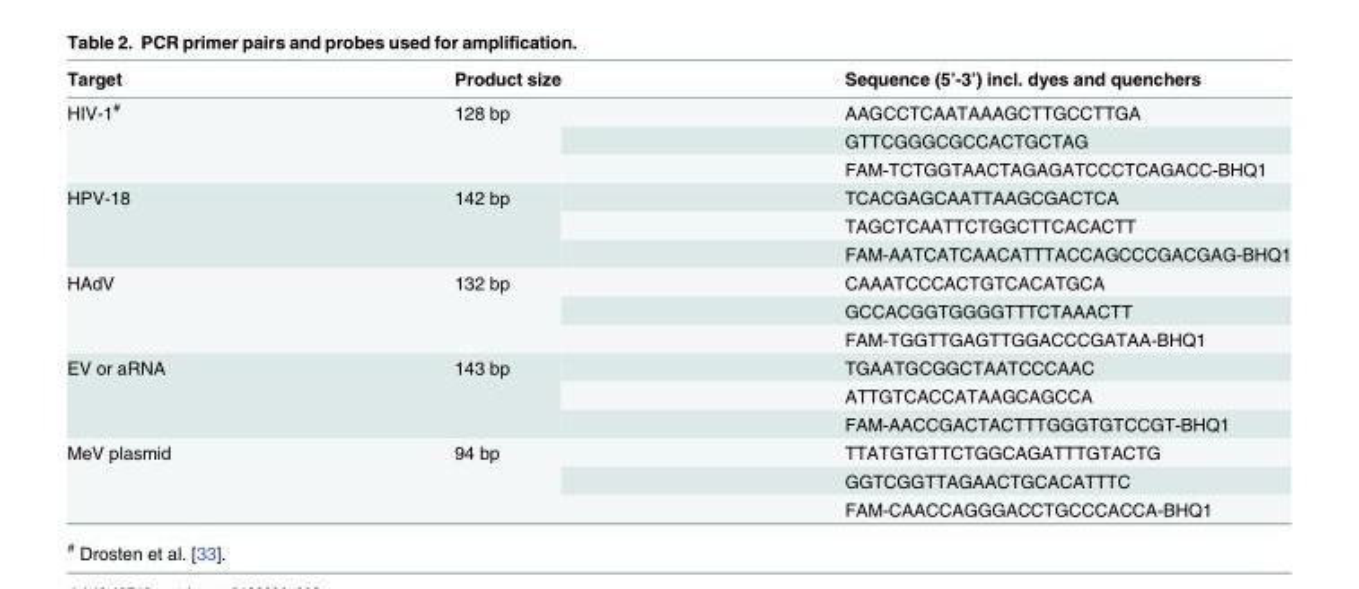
<table><thead><tr><td>Target</td><td>Product size</td><td>Sequence (5’-3’) incl. dyes and quenchers</td></tr></thead><tbody><tr><td rowspan="3">HIV-1<sup>#</sup></td><td rowspan="3">128 bp</td><td>AAGCCTCAATAAAGCTTGCCTTGA</td></tr><tr><td>GTTCGGGCGCCACTGCTAG</td></tr><tr><td>FAM-TCTGGTAACTAGAGATCCCTCAGACC-BHQ1</td></tr><tr><td rowspan="3">HPV-18</td><td rowspan="3">142 bp</td><td>TCACGAGCAATTAAGCGACTCA</td></tr><tr><td>TAGCTCAATTCTGGCTTCACACTT</td></tr><tr><td>FAM-AATCATCAACATTTACCAGCCCGACGAG-BHQ1</td></tr><tr><td rowspan="3">HAdV</td><td rowspan="3">132 bp</td><td>CAAATCCCACTGTCACATGCA</td></tr><tr><td>GCCACGGTGGGGTTTCTAAACTT</td></tr><tr><td>FAM-TGGTTGAGTTGGACCCGATAA-BHQ1</td></tr><tr><td rowspan="3">EV or aRNA</td><td rowspan="3">143 bp</td><td>TGAATGCGGCTAATCCCAAC</td></tr><tr><td>ATTGTCACCATAAGCAGCCA</td></tr><tr><td>FAM-AACCGACTACTTTGGGTGTCCGT-BHQ1</td></tr><tr><td rowspan="3">MeV plasmid</td><td rowspan="3">94 bp</td><td>TTATGTGTTCTGGCAGATTTGTACTG</td></tr><tr><td>GGTCGGTTAGAACTGCACATTTC</td></tr><tr><td>FAM-CAACCAGGGACCTGCCCACCA-BHQ1</td></tr></tbody></table>